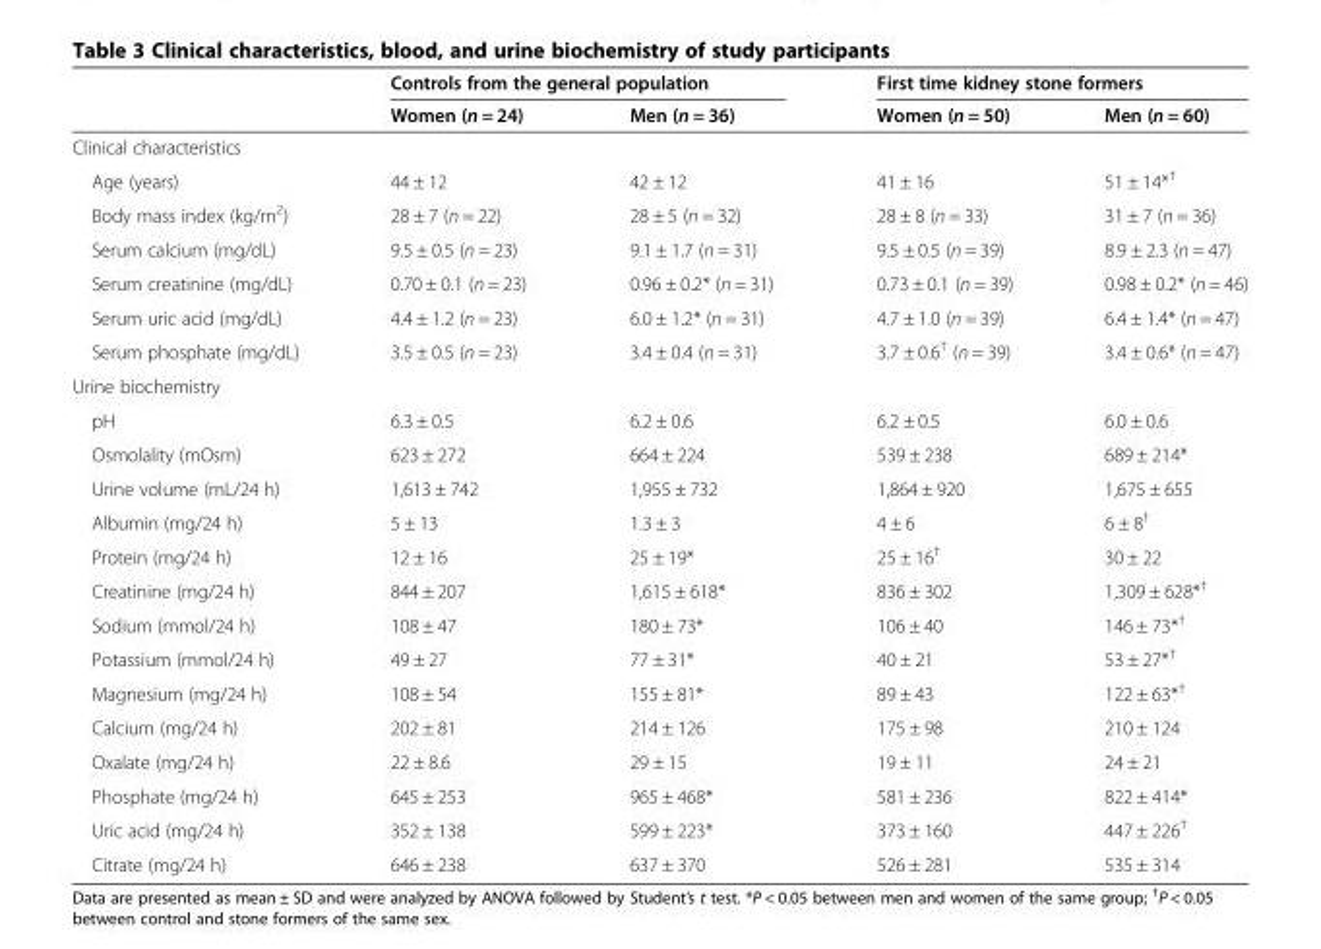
<table><thead><tr><td rowspan="2"></td><td colspan="2">Controls from the general population</td><td colspan="2">First time kidney stone formers</td></tr><tr><td>Women (n = 24)</td><td>Men (n = 36)</td><td>Women (n = 50)</td><td>Men (n = 60)</td></tr></thead><tbody><tr><td colspan="5">Clinical characteristics</td></tr><tr><td>Age (years)</td><td>44 ± 12</td><td>42 ± 12</td><td>41 ± 16</td><td>51 ± 14*<sup>†</sup></td></tr><tr><td>Body mass index (kg/m<sup>2</sup>)</td><td>28 ± 7 (n = 22)</td><td>28 ± 5 (n = 32)</td><td>28 ± 8 (n = 33)</td><td>31 ± 7 (n = 36)</td></tr><tr><td>Serum calcium (mg/dL)</td><td>9.5 ± 0.5 (n = 23)</td><td>9.1 ± 1.7 (n = 31)</td><td>9.5 ± 0.5 (n = 39)</td><td>8.9 ± 2.3 (n = 47)</td></tr><tr><td>Serum creatinine (mg/dL)</td><td>0.70 ± 0.1 (n = 23)</td><td>0.96 ± 0.2* (n = 31)</td><td>0.73 ± 0.1 (n = 39)</td><td>0.98 ± 0.2* (n = 46)</td></tr><tr><td>Serum uric acid (mg/dL)</td><td>4.4 ± 1.2 (n = 23)</td><td>6.0 ± 1.2* (n = 31)</td><td>4.7 ± 1.0 (n = 39)</td><td>6.4 ± 1.4* (n = 47)</td></tr><tr><td>Serum phosphate (mg/dL)</td><td>3.5 ± 0.5 (n = 23)</td><td>3.4 ± 0.4 (n = 31)</td><td>3.7 ± 0.6<sup>†</sup> (n = 39)</td><td>3.4 ± 0.6* (n = 47)</td></tr><tr><td colspan="5">Urine biochemistry</td></tr><tr><td>pH</td><td>6.3 ± 0.5</td><td>6.2 ± 0.6</td><td>6.2 ± 0.5</td><td>6.0 ± 0.6</td></tr><tr><td>Osmolality (mOsm)</td><td>623 ± 272</td><td>664 ± 224</td><td>539 ± 238</td><td>689 ± 214*</td></tr><tr><td>Urine volume (mL/24 h)</td><td>1,613 ± 742</td><td>1,955 ± 732</td><td>1,864 ± 920</td><td>1,675 ± 655</td></tr><tr><td>Albumin (mg/24 h)</td><td>5 ± 13</td><td>1.3 ± 3</td><td>4 ± 6</td><td>6 ± 8<sup>†</sup></td></tr><tr><td>Protein (mg/24 h)</td><td>12 ± 16</td><td>25 ± 19*</td><td>25 ± 16<sup>†</sup></td><td>30 ± 22</td></tr><tr><td>Creatinine (mg/24 h)</td><td>844 ± 207</td><td>1,615 ± 618*</td><td>836 ± 302</td><td>1,309 ± 628*<sup>†</sup></td></tr><tr><td>Sodium (mmol/24 h)</td><td>108 ± 47</td><td>180 ± 73*</td><td>106 ± 40</td><td>146 ± 73*<sup>†</sup></td></tr><tr><td>Potassium (mmol/24 h)</td><td>49 ± 27</td><td>77 ± 31*</td><td>40 ± 21</td><td>53 ± 27*<sup>†</sup></td></tr><tr><td>Magnesium (mg/24 h)</td><td>108 ± 54</td><td>155 ± 81*</td><td>89 ± 43</td><td>122 ± 63*<sup>†</sup></td></tr><tr><td>Calcium (mg/24 h)</td><td>202 ± 81</td><td>214 ± 126</td><td>175 ± 98</td><td>210 ± 124</td></tr><tr><td>Oxalate (mg/24 h)</td><td>22 ± 8.6</td><td>29 ± 15</td><td>19 ± 11</td><td>24 ± 21</td></tr><tr><td>Phosphate (mg/24 h)</td><td>645 ± 253</td><td>965 ± 468*</td><td>581 ± 236</td><td>822 ± 414*</td></tr><tr><td>Uric acid (mg/24 h)</td><td>352 ± 138</td><td>599 ± 223*</td><td>373 ± 160</td><td>447 ± 226<sup>†</sup></td></tr><tr><td>Citrate (mg/24 h)</td><td>646 ± 238</td><td>637 ± 370</td><td>526 ± 281</td><td>535 ± 314</td></tr></tbody></table>